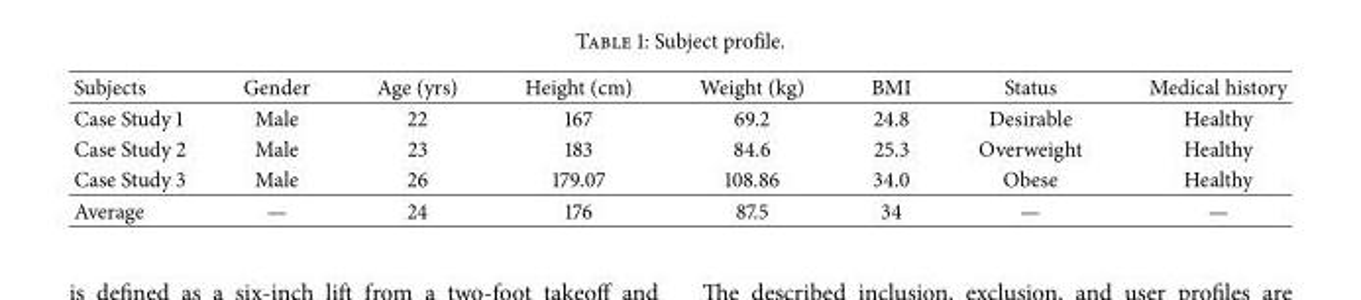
<table><thead><tr><td>Subjects</td><td>Gender</td><td>Age (yrs)</td><td>Height (cm)</td><td>Weight (kg)</td><td>BMI</td><td>Status</td><td>Medical history</td></tr></thead><tbody><tr><td>Case Study 1</td><td>Male</td><td>22</td><td>167</td><td>69.2</td><td>24.8</td><td>Desirable</td><td>Healthy</td></tr><tr><td>Case Study 2</td><td>Male</td><td>23</td><td>183</td><td>84.6</td><td>25.3</td><td>Overweight</td><td>Healthy</td></tr><tr><td>Case Study 3</td><td>Male</td><td>26</td><td>179.07</td><td>108.86</td><td>34.0</td><td>Obese</td><td>Healthy</td></tr><tr><td>Average</td><td>—</td><td>24</td><td>176</td><td>87.5</td><td>34</td><td>—</td><td>—</td></tr></tbody></table>